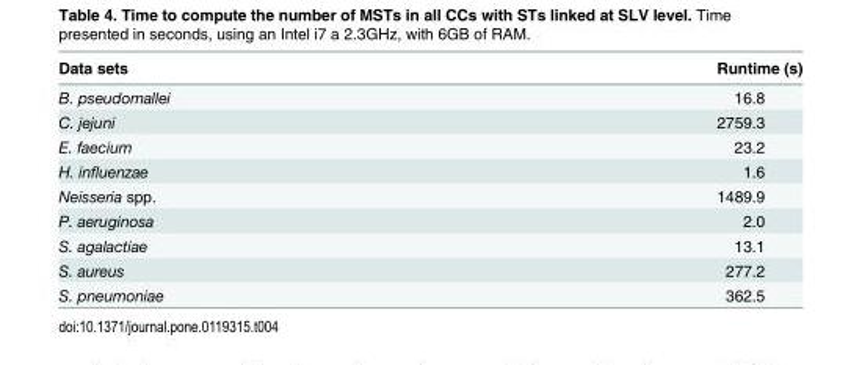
<table><thead><tr><td>Data sets</td><td>Runtime (s)</td></tr></thead><tbody><tr><td>B. pseudomallei</td><td>16.8</td></tr><tr><td>C. jejuni</td><td>2759.3</td></tr><tr><td>E. faecium</td><td>23.2</td></tr><tr><td>H. influenzae</td><td>1.6</td></tr><tr><td>Neisseria spp.</td><td>1489.9</td></tr><tr><td>P. aeruginosa</td><td>2.0</td></tr><tr><td>S. agalactiae</td><td>13.1</td></tr><tr><td>S. aureus</td><td>277.2</td></tr><tr><td>S. pneumoniae</td><td>362.5</td></tr></tbody></table>